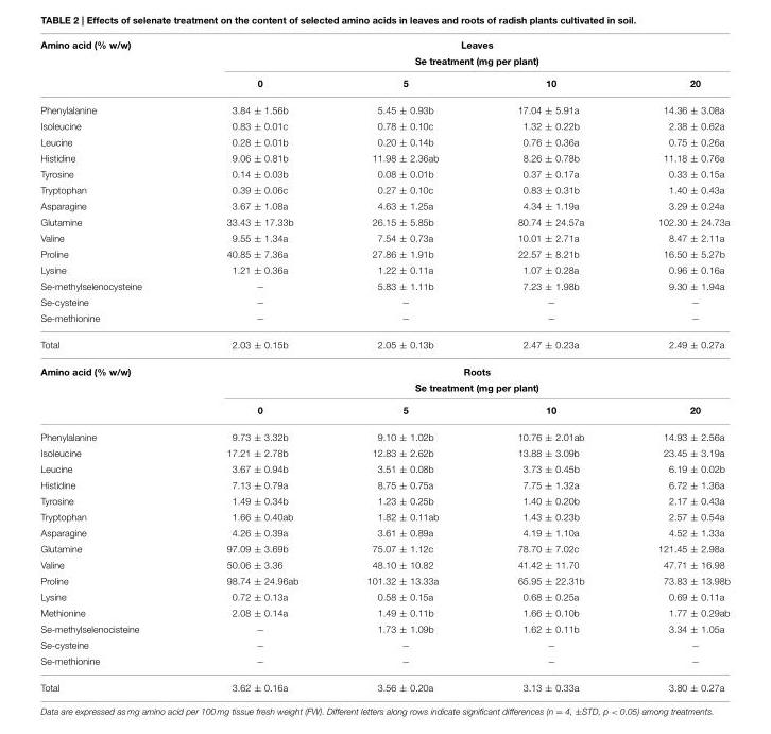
<table><thead><tr><td rowspan="3">Amino acid (% w/w)</td><td rowspan="2" colspan="4">Leaves Se treatment (mg per plant)</td></tr><tr></tr><tr><td>0</td><td>5</td><td>10</td><td>20</td></tr></thead><tbody><tr><td>Phenylalanine</td><td>3.84 ± 1.56b</td><td>5.45 ± 0.93b</td><td>17.04 ± 5.91a</td><td>14.36 ± 3.08a</td></tr><tr><td>Isoleucine</td><td>0.83 ± 0.01c</td><td>0.78 ± 0.10c</td><td>1.32 ± 0.22b</td><td>2.38 ± 0.62a</td></tr><tr><td>Leucine</td><td>0.28 ± 0.01b</td><td>0.20 ± 0.14b</td><td>0.76 ± 0.36a</td><td>0.75 ± 0.26a</td></tr><tr><td>Histidine</td><td>9.06 ± 0.81b</td><td>11.98 ± 2.36ab</td><td>8.26 ± 0.78b</td><td>11.18 ± 0.76a</td></tr><tr><td>Tyrosine</td><td>0.14 ± 0.03b</td><td>0.08 ± 0.01b</td><td>0.37 ± 0.17a</td><td>0.33 ± 0.15a</td></tr><tr><td>Tryptophan</td><td>0.39 ± 0.06c</td><td>0.27 ± 0.10c</td><td>0.83 ± 0.31b</td><td>1.40 ± 0.43a</td></tr><tr><td>Asparagine</td><td>3.67 ± 1.08a</td><td>4.63 ± 1.25a</td><td>4.34 ± 1.19a</td><td>3.29 ± 0.24a</td></tr><tr><td>Glutamine</td><td>33.43 ± 17.33b</td><td>26.15 ± 5.85b</td><td>80.74 ± 24.57a</td><td>102.30 ± 24.73a</td></tr><tr><td>Valine</td><td>9.55 ± 1.34a</td><td>7.54 ± 0.73a</td><td>10.01 ± 2.71a</td><td>8.47 ± 2.11a</td></tr><tr><td>Proline</td><td>40.85 ± 7.36a</td><td>27.86 ± 1.91b</td><td>22.57 ± 8.21b</td><td>16.50 ± 5.27b</td></tr><tr><td>Lysine</td><td>1.21 ± 0.36a</td><td>1.22 ± 0.11a</td><td>1.07 ± 0.28a</td><td>0.96 ± 0.16a</td></tr><tr><td>Se-methylselenocysteine</td><td>−</td><td>5.83 ± 1.11b</td><td>7.23 ± 1.98b</td><td>9.30 ± 1.94a</td></tr><tr><td>Se-cysteine</td><td>−</td><td>−</td><td>−</td><td>−</td></tr><tr><td>Se-methionine</td><td>−</td><td>−</td><td>−</td><td>−</td></tr><tr><td>Total</td><td>2.03 ± 0.15b</td><td>2.05 ± 0.13b</td><td>2.47 ± 0.23a</td><td>2.49 ± 0.27a</td></tr><tr><td rowspan="3">Amino acid (% w/w)</td><td colspan="4">Roots</td></tr><tr><td colspan="4">Se treatment (mg per plant)</td></tr><tr><td>0</td><td>5</td><td>10</td><td>20</td></tr><tr><td>Phenylalanine</td><td>9.73 ± 3.32b</td><td>9.10 ± 1.02b</td><td>10.76 ± 2.01ab</td><td>14.93 ± 2.56a</td></tr><tr><td>Isoleucine</td><td>17.21 ± 2.78b</td><td>12.83 ± 2.62b</td><td>13.88 ± 3.09b</td><td>23.45 ± 3.19a</td></tr><tr><td>Leucine</td><td>3.67 ± 0.94b</td><td>3.51 ± 0.08b</td><td>3.73 ± 0.45b</td><td>6.19 ± 0.02b</td></tr><tr><td>Histidine</td><td>7.13 ± 0.79a</td><td>8.75 ± 0.75a</td><td>7.75 ± 1.32a</td><td>6.72 ± 1.36a</td></tr><tr><td>Tyrosine</td><td>1.49 ± 0.34b</td><td>1.23 ± 0.25b</td><td>1.40 ± 0.20b</td><td>2.17 ± 0.43a</td></tr><tr><td>Tryptophan</td><td>1.66 ± 0.40ab</td><td>1.82 ± 0.11ab</td><td>1.43 ± 0.23b</td><td>2.57 ± 0.54a</td></tr><tr><td>Asparagine</td><td>4.26 ± 0.39a</td><td>3.61 ± 0.89a</td><td>4.19 ± 1.10a</td><td>4.52 ± 1.33a</td></tr><tr><td>Glutamine</td><td>97.09 ± 3.69b</td><td>75.07 ± 1.12c</td><td>78.70 ± 7.02c</td><td>121.45 ± 2.98a</td></tr><tr><td>Valine</td><td>50.06 ± 3.36</td><td>48.10 ± 10.82</td><td>41.42 ± 11.70</td><td>47.71 ± 16.98</td></tr><tr><td>Proline</td><td>98.74 ± 24.96ab</td><td>101.32 ± 13.33a</td><td>65.95 ± 22.31b</td><td>73.83 ± 13.98b</td></tr><tr><td>Lysine</td><td>0.72 ± 0.13a</td><td>0.58 ± 0.15a</td><td>0.68 ± 0.25a</td><td>0.69 ± 0.11a</td></tr><tr><td>Methionine</td><td>2.08 ± 0.14a</td><td>1.49 ± 0.11b</td><td>1.66 ± 0.10b</td><td>1.77 ± 0.29ab</td></tr><tr><td>Se-methylselenocisteine</td><td>−</td><td>1.73 ± 1.09b</td><td>1.62 ± 0.11b</td><td>3.34 ± 1.05a</td></tr><tr><td>Se-cysteine</td><td>−</td><td>−</td><td>−</td><td>−</td></tr><tr><td>Se-methionine</td><td>−</td><td>−</td><td>−</td><td>−</td></tr><tr><td>Total</td><td>3.62 ± 0.16a</td><td>3.56 ± 0.20a</td><td>3.13 ± 0.33a</td><td>3.80 ± 0.27a</td></tr></tbody></table>